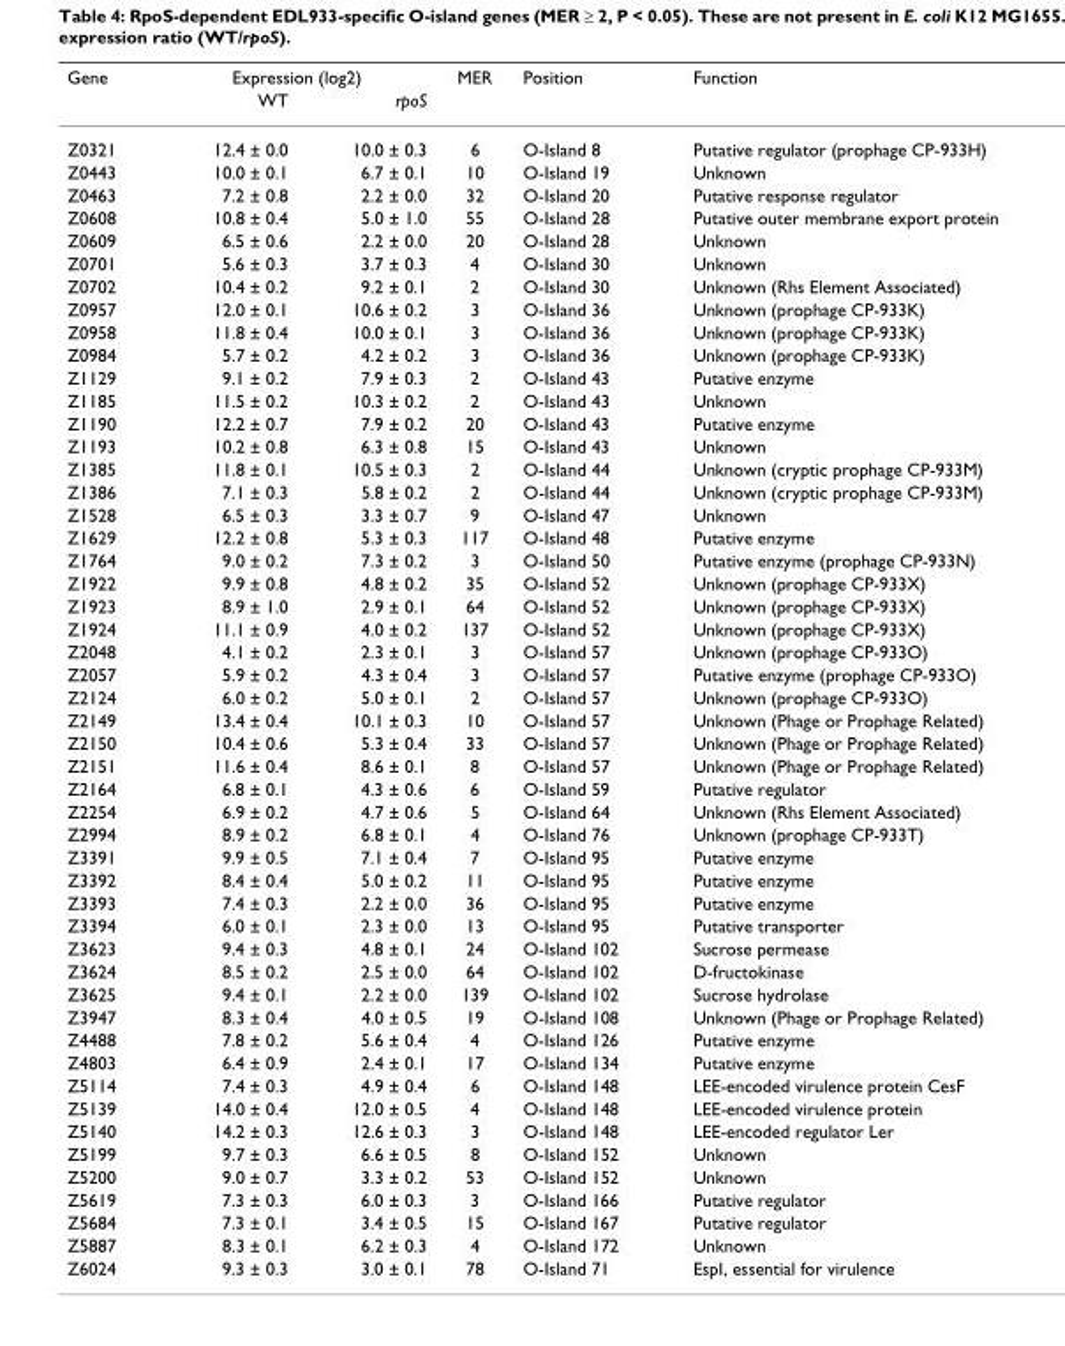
<table><thead><tr><td rowspan="2">Gene</td><td colspan="2">Expression (log2)</td><td rowspan="2">MER</td><td rowspan="2">Position</td><td rowspan="2">Function</td></tr><tr><td>WT</td><td>rpoS</td></tr></thead><tbody><tr><td>Z0321</td><td>12.4 ± 0.0</td><td>10.0 ± 0.3</td><td>6</td><td>O-Island 8</td><td>Putative regulator (prophage CP-933H)</td></tr><tr><td>Z0443</td><td>10.0 ± 0.1</td><td>6.7 ± 0.1</td><td>10</td><td>O-Island 19</td><td>Unknown</td></tr><tr><td>Z0463</td><td>7.2 ± 0.8</td><td>2.2 ± 0.0</td><td>32</td><td>O-Island 20</td><td>Putative response regulator</td></tr><tr><td>Z0608</td><td>10.8 ± 0.4</td><td>5.0 ± 1.0</td><td>55</td><td>O-Island 28</td><td>Putative outer membrane export protein</td></tr><tr><td>Z0609</td><td>6.5 ± 0.6</td><td>2.2 ± 0.0</td><td>20</td><td>O-Island 28</td><td>Unknown</td></tr><tr><td>Z0701</td><td>5.6 ± 0.3</td><td>3.7 ± 0.3</td><td>4</td><td>O-Island 30</td><td>Unknown</td></tr><tr><td>Z0702</td><td>10.4 ± 0.2</td><td>9.2 ± 0.1</td><td>2</td><td>O-Island 30</td><td>Unknown (Rhs Element Associated)</td></tr><tr><td>Z0957</td><td>12.0 ± 0.1</td><td>10.6 ± 0.2</td><td>3</td><td>O-Island 36</td><td>Unknown (prophage CP-933K)</td></tr><tr><td>Z0958</td><td>11.8 ± 0.4</td><td>10.0 ± 0.1</td><td>3</td><td>O-Island 36</td><td>Unknown (prophage CP-933K)</td></tr><tr><td>Z0984</td><td>5.7 ± 0.2</td><td>4.2 ± 0.2</td><td>3</td><td>O-Island 36</td><td>Unknown (prophage CP-933K)</td></tr><tr><td>Z1129</td><td>9.1 ± 0.2</td><td>7.9 ± 0.3</td><td>2</td><td>O-Island 43</td><td>Putative enzyme</td></tr><tr><td>Z1185</td><td>11.5 ± 0.2</td><td>10.3 ± 0.2</td><td>2</td><td>O-Island 43</td><td>Unknown</td></tr><tr><td>Z1190</td><td>12.2 ± 0.7</td><td>7.9 ± 0.2</td><td>20</td><td>O-Island 43</td><td>Putative enzyme</td></tr><tr><td>Z1193</td><td>10.2 ± 0.8</td><td>6.3 ± 0.8</td><td>15</td><td>O-Island 43</td><td>Unknown</td></tr><tr><td>Z1385</td><td>11.8 ± 0.1</td><td>10.5 ± 0.3</td><td>2</td><td>O-Island 44</td><td>Unknown (cryptic prophage CP-933M)</td></tr><tr><td>Z1386</td><td>7.1 ± 0.3</td><td>5.8 ± 0.2</td><td>2</td><td>O-Island 44</td><td>Unknown (cryptic prophage CP-933M)</td></tr><tr><td>Z1528</td><td>6.5 ± 0.3</td><td>3.3 ± 0.7</td><td>9</td><td>O-Island 47</td><td>Unknown</td></tr><tr><td>Z1629</td><td>12.2 ± 0.8</td><td>5.3 ± 0.3</td><td>117</td><td>O-Island 48</td><td>Putative enzyme</td></tr><tr><td>Z1764</td><td>9.0 ± 0.2</td><td>7.3 ± 0.2</td><td>3</td><td>O-Island 50</td><td>Putative enzyme (prophage CP-933N)</td></tr><tr><td>Z1922</td><td>9.9 ± 0.8</td><td>4.8 ± 0.2</td><td>35</td><td>O-Island 52</td><td>Unknown (prophage CP-933X)</td></tr><tr><td>Z1923</td><td>8.9 ± 1.0</td><td>2.9 ± 0.1</td><td>64</td><td>O-Island 52</td><td>Unknown (prophage CP-933X)</td></tr><tr><td>Z1924</td><td>11.1 ± 0.9</td><td>4.0 ± 0.2</td><td>137</td><td>O-Island 52</td><td>Unknown (prophage CP-933X)</td></tr><tr><td>Z2048</td><td>4.1 ± 0.2</td><td>2.3 ± 0.1</td><td>3</td><td>O-Island 57</td><td>Unknown (prophage CP-933O)</td></tr><tr><td>Z2057</td><td>5.9 ± 0.2</td><td>4.3 ± 0.4</td><td>3</td><td>O-Island 57</td><td>Putative enzyme (prophage CP-933O)</td></tr><tr><td>Z2124</td><td>6.0 ± 0.2</td><td>5.0 ± 0.1</td><td>2</td><td>O-Island 57</td><td>Unknown (prophage CP-933O)</td></tr><tr><td>Z2149</td><td>13.4 ± 0.4</td><td>10.1 ± 0.3</td><td>10</td><td>O-Island 57</td><td>Unknown (Phage or Prophage Related)</td></tr><tr><td>Z2150</td><td>10.4 ± 0.6</td><td>5.3 ± 0.4</td><td>33</td><td>O-Island 57</td><td>Unknown (Phage or Prophage Related)</td></tr><tr><td>Z2151</td><td>11.6 ± 0.4</td><td>8.6 ± 0.1</td><td>8</td><td>O-Island 57</td><td>Unknown (Phage or Prophage Related)</td></tr><tr><td>Z2164</td><td>6.8 ± 0.1</td><td>4.3 ± 0.6</td><td>6</td><td>O-Island 59</td><td>Putative regulator</td></tr><tr><td>Z2254</td><td>6.9 ± 0.2</td><td>4.7 ± 0.6</td><td>5</td><td>O-Island 64</td><td>Unknown (Rhs Element Associated)</td></tr><tr><td>Z2994</td><td>8.9 ± 0.2</td><td>6.8 ± 0.1</td><td>4</td><td>O-Island 76</td><td>Unknown (prophage CP-933T)</td></tr><tr><td>Z3391</td><td>9.9 ± 0.5</td><td>7.1 ± 0.4</td><td>7</td><td>O-Island 95</td><td>Putative enzyme</td></tr><tr><td>Z3392</td><td>8.4 ± 0.4</td><td>5.0 ± 0.2</td><td>11</td><td>O-Island 95</td><td>Putative enzyme</td></tr><tr><td>Z3393</td><td>7.4 ± 0.3</td><td>2.2 ± 0.0</td><td>36</td><td>O-Island 95</td><td>Putative enzyme</td></tr><tr><td>Z3394</td><td>6.0 ± 0.1</td><td>2.3 ± 0.0</td><td>13</td><td>O-Island 95</td><td>Putative transporter</td></tr><tr><td>Z3623</td><td>9.4 ± 0.3</td><td>4.8 ± 0.1</td><td>24</td><td>O-Island 102</td><td>Sucrose permease</td></tr><tr><td>Z3624</td><td>8.5 ± 0.2</td><td>2.5 ± 0.0</td><td>64</td><td>O-Island 102</td><td>D-fructokinase</td></tr><tr><td>Z3625</td><td>9.4 ± 0.1</td><td>2.2 ± 0.0</td><td>139</td><td>O-Island 102</td><td>Sucrose hydrolase</td></tr><tr><td>Z3947</td><td>8.3 ± 0.4</td><td>4.0 ± 0.5</td><td>19</td><td>O-Island 108</td><td>Unknown (Phage or Prophage Related)</td></tr><tr><td>Z4488</td><td>7.8 ± 0.2</td><td>5.6 ± 0.4</td><td>4</td><td>O-Island 126</td><td>Putative enzyme</td></tr><tr><td>Z4803</td><td>6.4 ± 0.9</td><td>2.4 ± 0.1</td><td>17</td><td>O-Island 134</td><td>Putative enzyme</td></tr><tr><td>Z5114</td><td>7.4 ± 0.3</td><td>4.9 ± 0.4</td><td>6</td><td>O-Island 148</td><td>LEE-encoded virulence protein CesF</td></tr><tr><td>Z5139</td><td>14.0 ± 0.4</td><td>12.0 ± 0.5</td><td>4</td><td>O-Island 148</td><td>LEE-encoded virulence protein</td></tr><tr><td>Z5140</td><td>14.2 ± 0.3</td><td>12.6 ± 0.3</td><td>3</td><td>O-Island 148</td><td>LEE-encoded regulator Ler</td></tr><tr><td>Z5199</td><td>9.7 ± 0.3</td><td>6.6 ± 0.5</td><td>8</td><td>O-Island 152</td><td>Unknown</td></tr><tr><td>Z5200</td><td>9.0 ± 0.7</td><td>3.3 ± 0.2</td><td>53</td><td>O-Island 152</td><td>Unknown</td></tr><tr><td>Z5619</td><td>7.3 ± 0.3</td><td>6.0 ± 0.3</td><td>3</td><td>O-Island 166</td><td>Putative regulator</td></tr><tr><td>Z5684</td><td>7.3 ± 0.1</td><td>3.4 ± 0.5</td><td>15</td><td>O-Island 167</td><td>Putative regulator</td></tr><tr><td>Z5887</td><td>8.3 ± 0.1</td><td>6.2 ± 0.3</td><td>4</td><td>O-Island 172</td><td>Unknown</td></tr><tr><td>Z6024</td><td>9.3 ± 0.3</td><td>3.0 ± 0.1</td><td>78</td><td>O-Island 71</td><td>EspI, essential for virulence</td></tr></tbody></table>